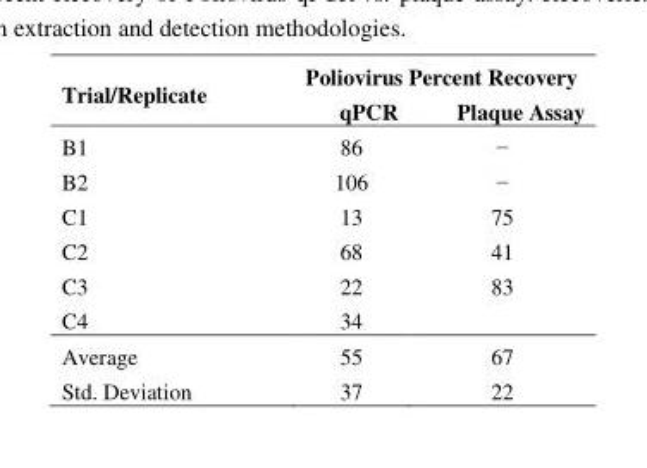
<table><thead><tr><td rowspan="2">Trial/Replicate</td><td colspan="2">Poliovirus Percent Recovery</td></tr><tr><td>qPCR</td><td>Plaque Assay</td></tr></thead><tbody><tr><td>B1</td><td>86</td><td>−</td></tr><tr><td>B2</td><td>106</td><td>−</td></tr><tr><td>C1</td><td>13</td><td>75</td></tr><tr><td>C2</td><td>68</td><td>41</td></tr><tr><td>C3</td><td>22</td><td>83</td></tr><tr><td>C4</td><td>34</td><td></td></tr><tr><td>Average</td><td>55</td><td>67</td></tr><tr><td>Std. Deviation</td><td>37</td><td>22</td></tr></tbody></table>